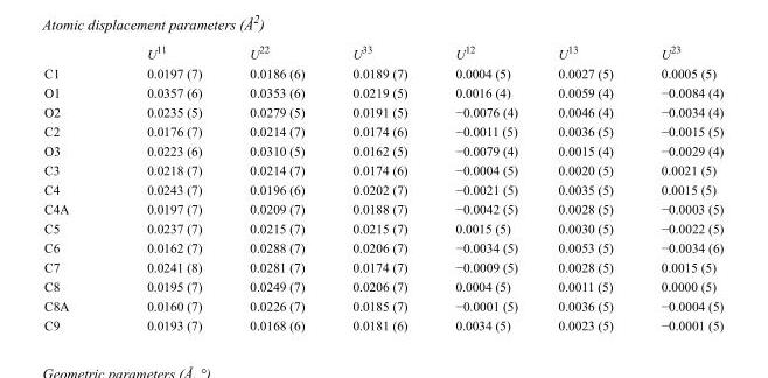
<table><thead><tr><td></td><td>U<sup>11</sup></td><td>U<sup>22</sup></td><td>U<sup>33</sup></td><td>U<sup>12</sup></td><td>U<sup>13</sup></td><td>U<sup>23</sup></td></tr></thead><tbody><tr><td>C1</td><td>0.0197 (7)</td><td>0.0186 (6)</td><td>0.0189 (7)</td><td>0.0004 (5)</td><td>0.0027 (5)</td><td>0.0005 (5)</td></tr><tr><td>O1</td><td>0.0357 (6)</td><td>0.0353 (6)</td><td>0.0219 (5)</td><td>0.0016 (4)</td><td>0.0059 (4)</td><td>−0.0084 (4)</td></tr><tr><td>O2</td><td>0.0235 (5)</td><td>0.0279 (5)</td><td>0.0191 (5)</td><td>−0.0076 (4)</td><td>0.0046 (4)</td><td>−0.0034 (4)</td></tr><tr><td>C2</td><td>0.0176 (7)</td><td>0.0214 (7)</td><td>0.0174 (6)</td><td>−0.0011 (5)</td><td>0.0036 (5)</td><td>−0.0015 (5)</td></tr><tr><td>O3</td><td>0.0223 (6)</td><td>0.0310 (5)</td><td>0.0162 (5)</td><td>−0.0079 (4)</td><td>0.0015 (4)</td><td>−0.0029 (4)</td></tr><tr><td>C3</td><td>0.0218 (7)</td><td>0.0214 (7)</td><td>0.0174 (6)</td><td>−0.0004 (5)</td><td>0.0020 (5)</td><td>0.0021 (5)</td></tr><tr><td>C4</td><td>0.0243 (7)</td><td>0.0196 (6)</td><td>0.0202 (7)</td><td>−0.0021 (5)</td><td>0.0035 (5)</td><td>0.0015 (5)</td></tr><tr><td>C4A</td><td>0.0197 (7)</td><td>0.0209 (7)</td><td>0.0188 (7)</td><td>−0.0042 (5)</td><td>0.0028 (5)</td><td>−0.0003 (5)</td></tr><tr><td>C5</td><td>0.0237 (7)</td><td>0.0215 (7)</td><td>0.0215 (7)</td><td>0.0015 (5)</td><td>0.0030 (5)</td><td>−0.0022 (5)</td></tr><tr><td>C6</td><td>0.0162 (7)</td><td>0.0288 (7)</td><td>0.0206 (7)</td><td>−0.0034 (5)</td><td>0.0053 (5)</td><td>−0.0034 (6)</td></tr><tr><td>C7</td><td>0.0241 (8)</td><td>0.0281 (7)</td><td>0.0174 (7)</td><td>−0.0009 (5)</td><td>0.0028 (5)</td><td>0.0015 (5)</td></tr><tr><td>C8</td><td>0.0195 (7)</td><td>0.0249 (7)</td><td>0.0206 (7)</td><td>0.0004 (5)</td><td>0.0011 (5)</td><td>0.0000 (5)</td></tr><tr><td>C8A</td><td>0.0160 (7)</td><td>0.0226 (7)</td><td>0.0185 (7)</td><td>−0.0001 (5)</td><td>0.0036 (5)</td><td>−0.0004 (5)</td></tr><tr><td>C9</td><td>0.0193 (7)</td><td>0.0168 (6)</td><td>0.0181 (6)</td><td>0.0034 (5)</td><td>0.0023 (5)</td><td>−0.0001 (5)</td></tr></tbody></table>